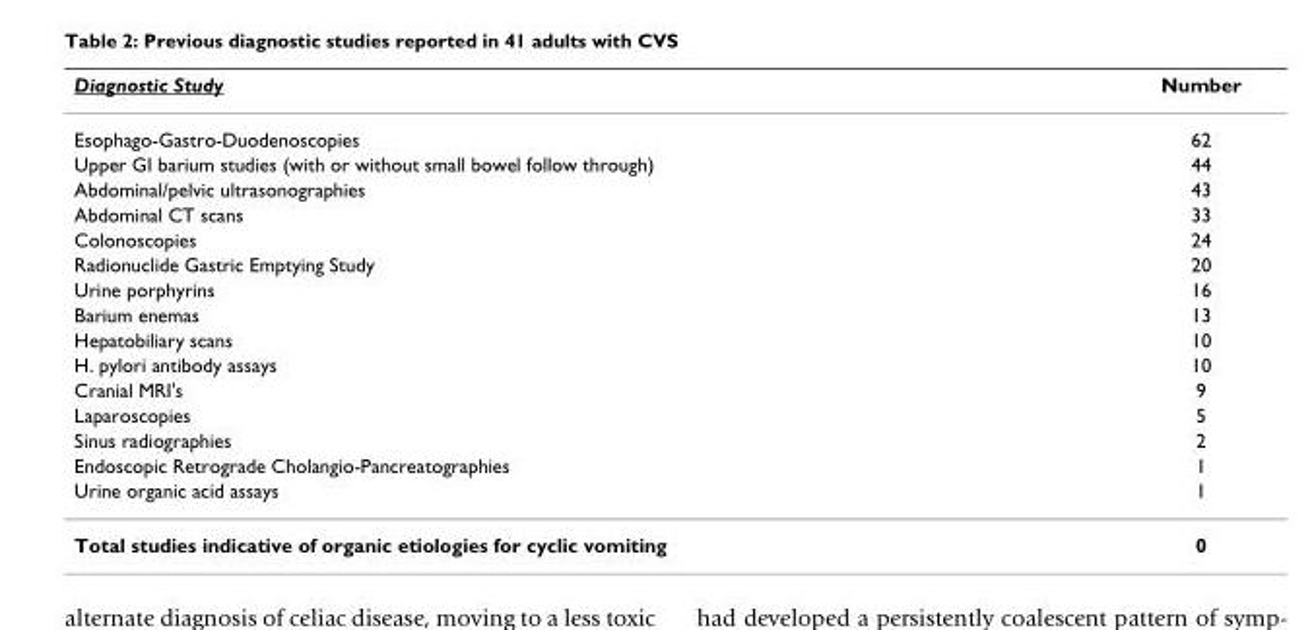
<table><thead><tr><td>Diagnostic Study</td><td>Number</td></tr></thead><tbody><tr><td>Esophago-Gastro-Duodenoscopies</td><td>62</td></tr><tr><td>Upper GI barium studies (with or without small bowel follow through)</td><td>44</td></tr><tr><td>Abdominal/pelvic ultrasonographies</td><td>43</td></tr><tr><td>Abdominal CT scans</td><td>33</td></tr><tr><td>Colonoscopies</td><td>24</td></tr><tr><td>Radionuclide Gastric Emptying Study</td><td>20</td></tr><tr><td>Urine porphyrins</td><td>16</td></tr><tr><td>Barium enemas</td><td>13</td></tr><tr><td>Hepatobiliary scans</td><td>10</td></tr><tr><td>H. pylori antibody assays</td><td>10</td></tr><tr><td>Cranial MRI&#x27;s</td><td>9</td></tr><tr><td>Laparoscopies</td><td>5</td></tr><tr><td>Sinus radiographies</td><td>2</td></tr><tr><td>Endoscopic Retrograde Cholangio-Pancreatographies</td><td>1</td></tr><tr><td>Urine organic acid assays</td><td>1</td></tr><tr><td>Total studies indicative of organic etiologies for cyclic vomiting</td><td>0</td></tr></tbody></table>